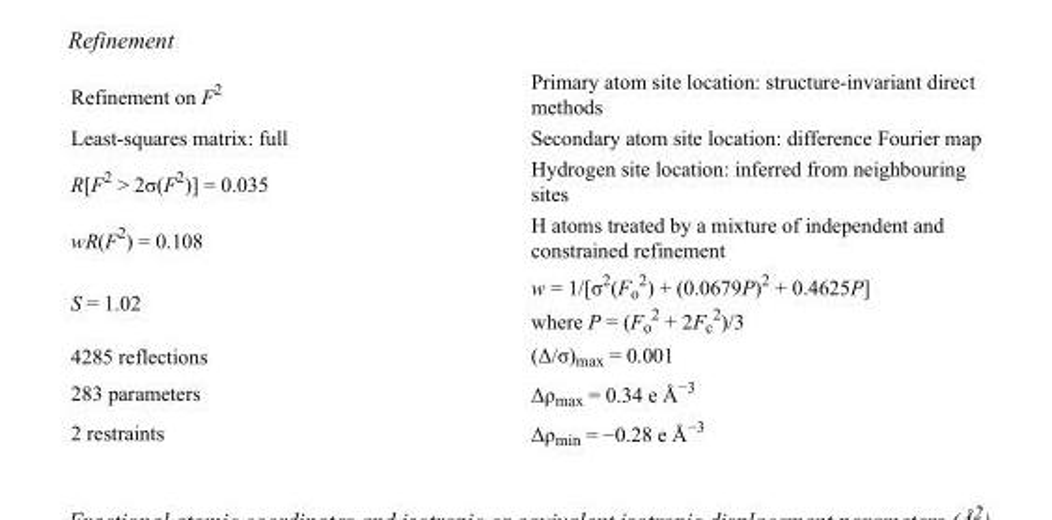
<table><tbody><tr><td>Refinement on F<sup>2</sup></td><td>Primary atom site location: structure-invariant direct methods</td></tr><tr><td>Least-squares matrix: full</td><td>Secondary atom site location: difference Fourier map</td></tr><tr><td>R[F<sup>2</sup> &gt; 2σ(F<sup>2</sup>)] = 0.035</td><td>Hydrogen site location: inferred from neighbouring sites</td></tr><tr><td>wR(F<sup>2</sup>) = 0.108</td><td>H atoms treated by a mixture of independent and constrained refinement</td></tr><tr><td>S = 1.02</td><td>w = 1/[σ<sup>2</sup>(F<sub>o</sub> <sup>2</sup>) + (0.0679P)<sup>2</sup> + 0.4625P] where P = (F<sub>o</sub> <sup>2</sup> + 2F<sub>c</sub> <sup>2</sup>)/3</td></tr><tr><td>4285 reflections</td><td>(Δ/σ)<sub>max</sub> = 0.001</td></tr><tr><td>283 parameters</td><td>Δρ<sub>max</sub> = 0.34 e Å<sup>−3</sup></td></tr><tr><td>2 restraints</td><td>Δρ<sub>min</sub> = −0.28 e Å<sup>−3</sup></td></tr></tbody></table>